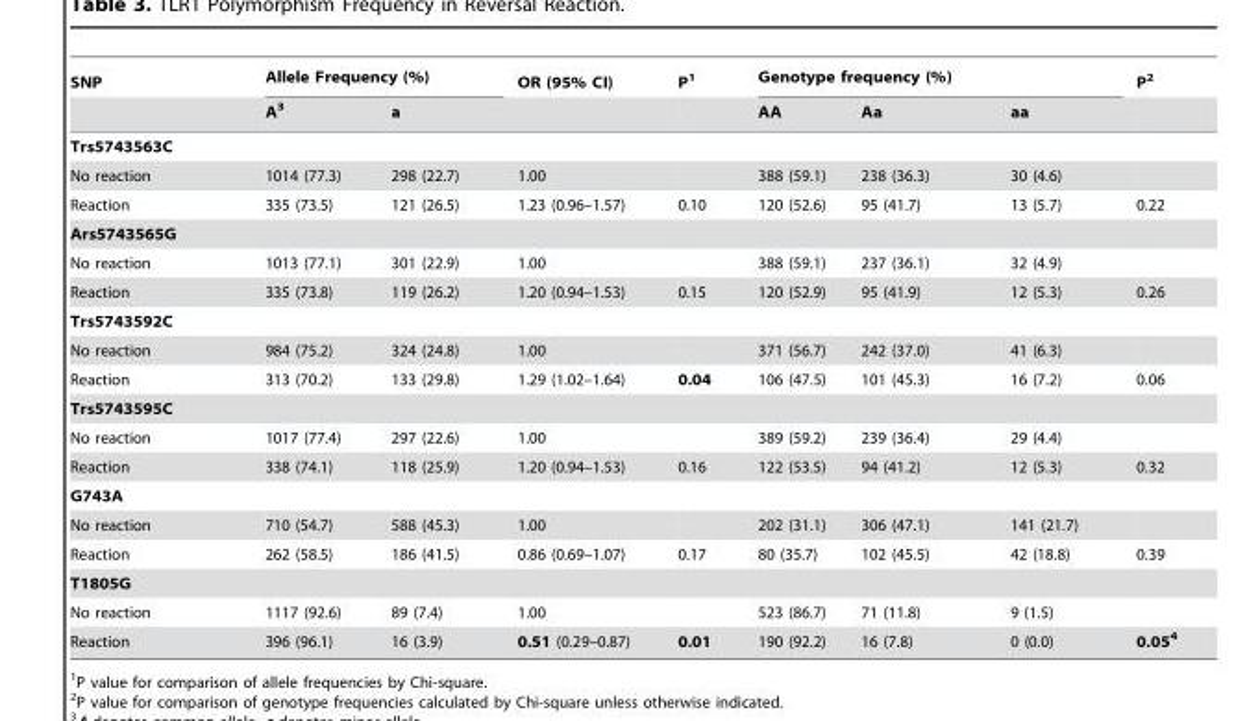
<table><thead><tr><td rowspan="2">SNP</td><td colspan="2">Allele Frequency (%)</td><td rowspan="2">OR (95% CI)</td><td rowspan="2">P<sup>1</sup></td><td colspan="3">Genotype frequency (%)</td><td rowspan="2">P<sup>2</sup></td></tr><tr><td>A<sup>3</sup></td><td>a</td><td>AA</td><td>Aa</td><td>aa</td></tr></thead><tbody><tr><td colspan="9">Trs5743563C</td></tr><tr><td>No reaction</td><td>1014 (77.3)</td><td>298 (22.7)</td><td>1.00</td><td></td><td>388 (59.1)</td><td>238 (36.3)</td><td>30 (4.6)</td><td></td></tr><tr><td>Reaction</td><td>335 (73.5)</td><td>121 (26.5)</td><td>1.23 (0.96–1.57)</td><td>0.10</td><td>120 (52.6)</td><td>95 (41.7)</td><td>13 (5.7)</td><td>0.22</td></tr><tr><td colspan="9">Ars5743565G</td></tr><tr><td>No reaction</td><td>1013 (77.1)</td><td>301 (22.9)</td><td>1.00</td><td></td><td>388 (59.1)</td><td>237 (36.1)</td><td>32 (4.9)</td><td></td></tr><tr><td>Reaction</td><td>335 (73.8)</td><td>119 (26.2)</td><td>1.20 (0.94–1.53)</td><td>0.15</td><td>120 (52.9)</td><td>95 (41.9)</td><td>12 (5.3)</td><td>0.26</td></tr><tr><td colspan="9">Trs5743592C</td></tr><tr><td>No reaction</td><td>984 (75.2)</td><td>324 (24.8)</td><td>1.00</td><td></td><td>371 (56.7)</td><td>242 (37.0)</td><td>41 (6.3)</td><td></td></tr><tr><td>Reaction</td><td>313 (70.2)</td><td>133 (29.8)</td><td>1.29 (1.02–1.64)</td><td>0.04</td><td>106 (47.5)</td><td>101 (45.3)</td><td>16 (7.2)</td><td>0.06</td></tr><tr><td colspan="9">Trs5743595C</td></tr><tr><td>No reaction</td><td>1017 (77.4)</td><td>297 (22.6)</td><td>1.00</td><td></td><td>389 (59.2)</td><td>239 (36.4)</td><td>29 (4.4)</td><td></td></tr><tr><td>Reaction</td><td>338 (74.1)</td><td>118 (25.9)</td><td>1.20 (0.94–1.53)</td><td>0.16</td><td>122 (53.5)</td><td>94 (41.2)</td><td>12 (5.3)</td><td>0.32</td></tr><tr><td colspan="9">G743A</td></tr><tr><td>No reaction</td><td>710 (54.7)</td><td>588 (45.3)</td><td>1.00</td><td></td><td>202 (31.1)</td><td>306 (47.1)</td><td>141 (21.7)</td><td></td></tr><tr><td>Reaction</td><td>262 (58.5)</td><td>186 (41.5)</td><td>0.86 (0.69–1.07)</td><td>0.17</td><td>80 (35.7)</td><td>102 (45.5)</td><td>42 (18.8)</td><td>0.39</td></tr><tr><td colspan="9">T1805G</td></tr><tr><td>No reaction</td><td>1117 (92.6)</td><td>89 (7.4)</td><td>1.00</td><td></td><td>523 (86.7)</td><td>71 (11.8)</td><td>9 (1.5)</td><td></td></tr><tr><td>Reaction</td><td>396 (96.1)</td><td>16 (3.9)</td><td>0.51 (0.29–0.87)</td><td>0.01</td><td>190 (92.2)</td><td>16 (7.8)</td><td>0 (0.0)</td><td>0.054</td></tr></tbody></table>